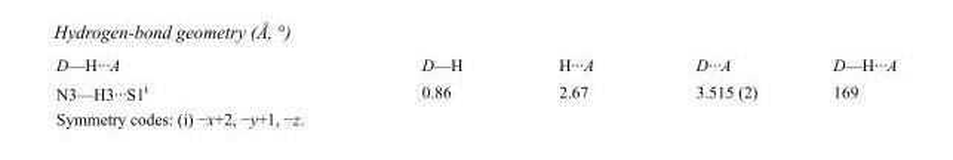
<table><tbody><tr><td>D—H···A</td><td>D—H</td><td>H···A</td><td>D···A</td><td>D—H···A</td></tr><tr><td>N3—H3···S1<sup>i</sup></td><td>0.86</td><td>2.67</td><td>3.515 (2)</td><td>169</td></tr></tbody></table>